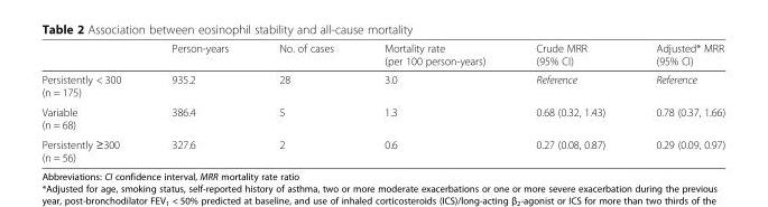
<table><thead><tr><td></td><td>Person-years</td><td>No. of cases</td><td>Mortality rate (per 100 person-years)</td><td>Crude MRR (95% CI)</td><td>Adjusted* MRR (95% CI)</td></tr></thead><tbody><tr><td>Persistently &lt; 300 (n = 175)</td><td>935.2</td><td>28</td><td>3.0</td><td>Reference</td><td>Reference</td></tr><tr><td>Variable (n = 68)</td><td>386.4</td><td>5</td><td>1.3</td><td>0.68 (0.32, 1.43)</td><td>0.78 (0.37, 1.66)</td></tr><tr><td>Persistently ≥300 (n = 56)</td><td>327.6</td><td>2</td><td>0.6</td><td>0.27 (0.08, 0.87)</td><td>0.29 (0.09, 0.97)</td></tr></tbody></table>